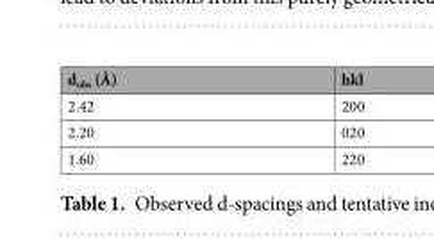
<table><thead><tr><td>d<sub>obs</sub> (Å)</td><td>hkl</td></tr></thead><tbody><tr><td>2.42</td><td>200</td></tr><tr><td>2.20</td><td>020</td></tr><tr><td>1.60</td><td>220</td></tr></tbody></table>